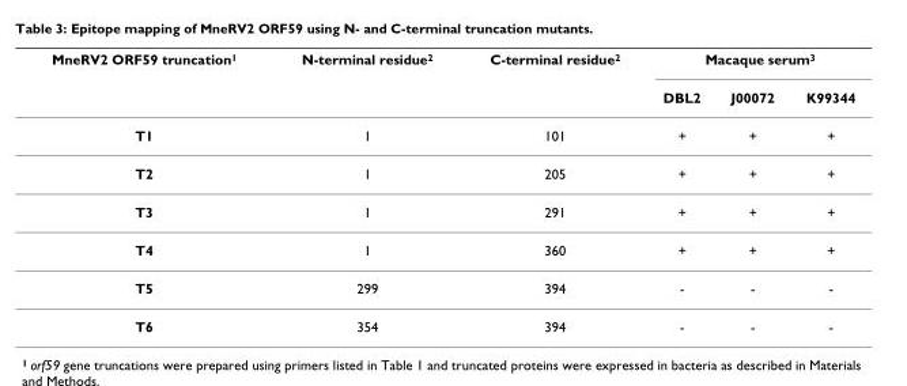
<table><thead><tr><td rowspan="2">MneRV2 ORF59 truncation<sup>1</sup></td><td rowspan="2">N-terminal residue<sup>2</sup></td><td rowspan="2">C-terminal residue<sup>2</sup></td><td colspan="3">Macaque serum<sup>3</sup></td></tr><tr><td>DBL2</td><td>J00072</td><td>K99344</td></tr></thead><tbody><tr><td>T1</td><td>1</td><td>101</td><td>+</td><td>+</td><td>+</td></tr><tr><td>T2</td><td>1</td><td>205</td><td>+</td><td>+</td><td>+</td></tr><tr><td>T3</td><td>1</td><td>291</td><td>+</td><td>+</td><td>+</td></tr><tr><td>T4</td><td>1</td><td>360</td><td>+</td><td>+</td><td>+</td></tr><tr><td>T5</td><td>299</td><td>394</td><td>-</td><td>-</td><td>-</td></tr><tr><td>T6</td><td>354</td><td>394</td><td>-</td><td>-</td><td>-</td></tr></tbody></table>